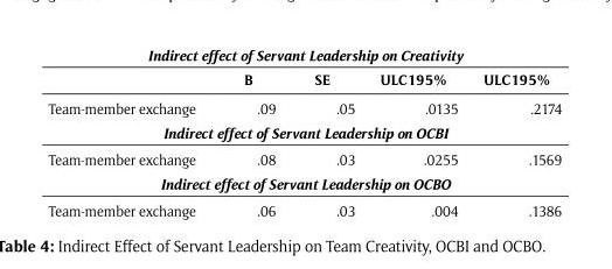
<table><tbody><tr><td colspan="5">Indirect effect of Servant Leadership on Creativity</td></tr><tr><td></td><td>B</td><td>SE</td><td>ULC195%</td><td>ULC195%</td></tr><tr><td>Team-member exchange</td><td>.09</td><td>.05</td><td>.0135</td><td>.2174</td></tr><tr><td colspan="5">Indirect effect of Servant Leadership on OCBI</td></tr><tr><td>Team-member exchange</td><td>.08</td><td>.03</td><td>.0255</td><td>.1569</td></tr><tr><td colspan="5">Indirect effect of Servant Leadership on OCBO</td></tr><tr><td>Team-member exchange</td><td>.06</td><td>.03</td><td>.004</td><td>.1386</td></tr></tbody></table>